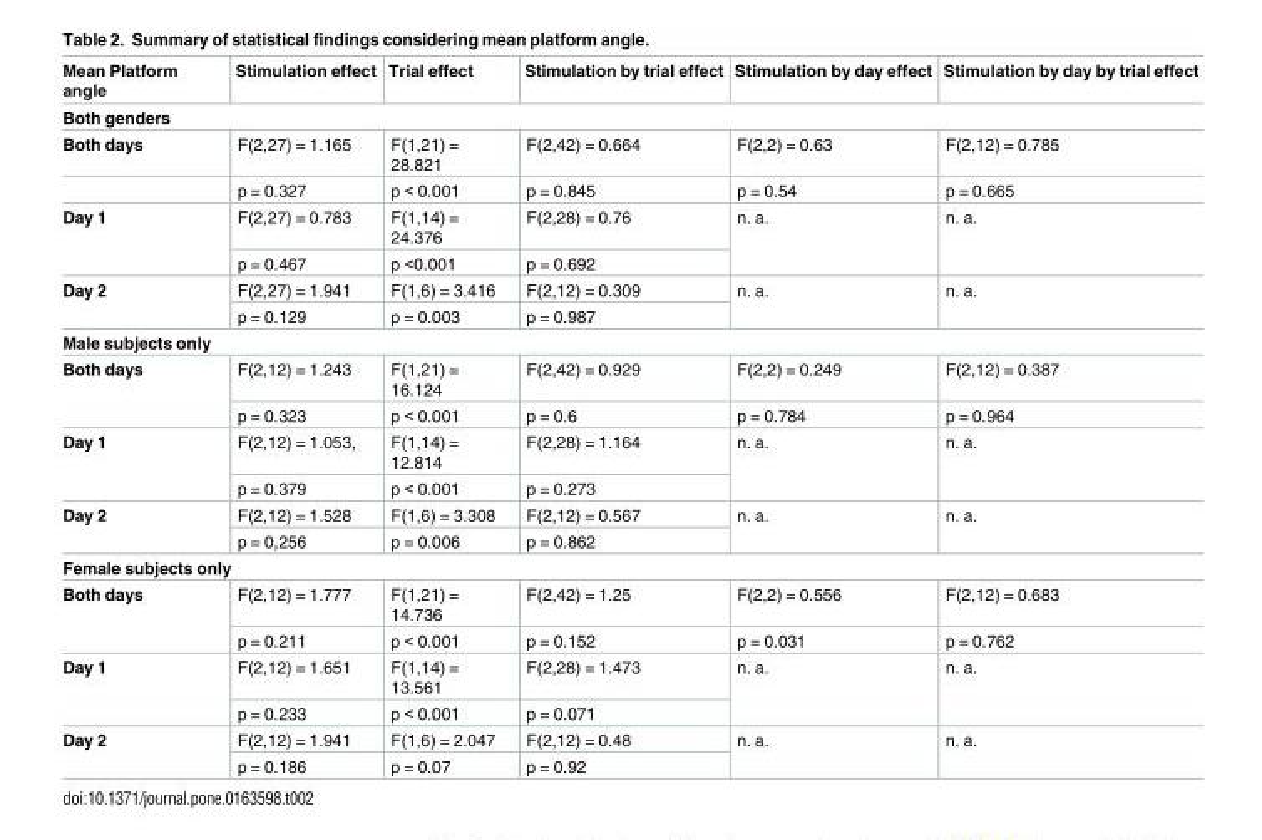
<table><thead><tr><td>Mean Platform angle</td><td>Stimulation effect</td><td>Trial effect</td><td>Stimulation by trial effect</td><td>Stimulation by day effect</td><td>Stimulation by day by trial effect</td></tr></thead><tbody><tr><td colspan="6">Both genders</td></tr><tr><td rowspan="2">Both days</td><td>F(2,27) = 1.165</td><td>F(1,21) = 28.821</td><td>F(2,42) = 0.664</td><td>F(2,2) = 0.63</td><td>F(2,12) = 0.785</td></tr><tr><td>p = 0.327</td><td>p &lt; 0.001</td><td>p = 0.845</td><td>p = 0.54</td><td>p = 0.665</td></tr><tr><td rowspan="2">Day 1</td><td>F(2,27) = 0.783</td><td>F(1,14) = 24.376</td><td>F(2,28) = 0.76</td><td rowspan="2">n. a.</td><td rowspan="2">n. a.</td></tr><tr><td>p = 0.467</td><td>p &lt;0.001</td><td>p = 0.692</td></tr><tr><td rowspan="2">Day 2</td><td>F(2,27) = 1.941</td><td>F(1,6) = 3.416</td><td>F(2,12) = 0.309</td><td rowspan="2">n. a.</td><td rowspan="2">n. a.</td></tr><tr><td>p = 0.129</td><td>p = 0.003</td><td>p = 0.987</td></tr><tr><td colspan="6">Male subjects only</td></tr><tr><td rowspan="2">Both days</td><td>F(2,12) = 1.243</td><td>F(1,21) = 16.124</td><td>F(2,42) = 0.929</td><td>F(2,2) = 0.249</td><td>F(2,12) = 0.387</td></tr><tr><td>p = 0.323</td><td>p &lt; 0.001</td><td>p = 0.6</td><td>p = 0.784</td><td>p = 0.964</td></tr><tr><td rowspan="2">Day 1</td><td>F(2,12) = 1.053,</td><td>F(1,14) = 12.814</td><td>F(2,28) = 1.164</td><td rowspan="2">n. a.</td><td rowspan="2">n. a.</td></tr><tr><td>p = 0.379</td><td>p &lt; 0.001</td><td>p = 0.273</td></tr><tr><td rowspan="2">Day 2</td><td>F(2,12) = 1.528</td><td>F(1,6) = 3.308</td><td>F(2,12) = 0.567</td><td rowspan="2">n. a.</td><td rowspan="2">n. a.</td></tr><tr><td>p = 0,256</td><td>p = 0.006</td><td>p = 0.862</td></tr><tr><td colspan="6">Female subjects only</td></tr><tr><td rowspan="2">Both days</td><td>F(2,12) = 1.777</td><td>F(1,21) = 14.736</td><td>F(2,42) = 1.25</td><td>F(2,2) = 0.556</td><td>F(2,12) = 0.683</td></tr><tr><td>p = 0.211</td><td>p &lt; 0.001</td><td>p = 0.152</td><td>p = 0.031</td><td>p = 0.762</td></tr><tr><td rowspan="2">Day 1</td><td>F(2,12) = 1.651</td><td>F(1,14) = 13.561</td><td>F(2,28) = 1.473</td><td rowspan="2">n. a.</td><td rowspan="2">n. a.</td></tr><tr><td>p = 0.233</td><td>p &lt; 0.001</td><td>p = 0.071</td></tr><tr><td rowspan="2">Day 2</td><td>F(2,12) = 1.941</td><td>F(1,6) = 2.047</td><td>F(2,12) = 0.48</td><td rowspan="2">n. a.</td><td rowspan="2">n. a.</td></tr><tr><td>p = 0.186</td><td>p = 0.07</td><td>p = 0.92</td></tr></tbody></table>